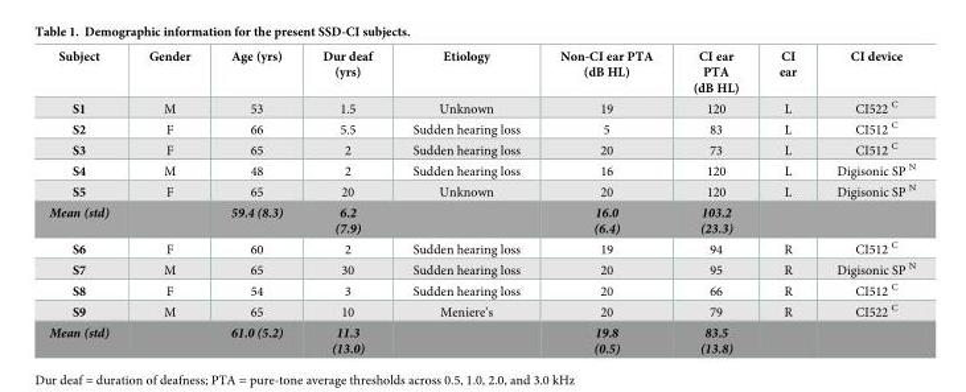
<table><thead><tr><td>Subject</td><td>Gender</td><td>Age (yrs)</td><td>Dur deaf (yrs)</td><td>Etiology</td><td>Non-CI ear PTA (dB HL)</td><td>CI ear PTA (dB HL)</td><td>CI ear</td><td>CI device</td></tr></thead><tbody><tr><td>S1</td><td>M</td><td>53</td><td>1.5</td><td>Unknown</td><td>19</td><td>120</td><td>L</td><td>CI522 <sup>C</sup></td></tr><tr><td>S2</td><td>F</td><td>66</td><td>5.5</td><td>Sudden hearing loss</td><td>5</td><td>83</td><td>L</td><td>CI512 <sup>C</sup></td></tr><tr><td>S3</td><td>F</td><td>65</td><td>2</td><td>Sudden hearing loss</td><td>20</td><td>73</td><td>L</td><td>CI512 <sup>C</sup></td></tr><tr><td>S4</td><td>M</td><td>48</td><td>2</td><td>Sudden hearing loss</td><td>16</td><td>120</td><td>L</td><td>Digisonic SP <sup>N</sup></td></tr><tr><td>S5</td><td>F</td><td>65</td><td>20</td><td>Unknown</td><td>20</td><td>120</td><td>L</td><td>Digisonic SP <sup>N</sup></td></tr><tr><td>Mean (std)</td><td></td><td>59.4 (8.3)</td><td>6.2 (7.9)</td><td></td><td>16.0 (6.4)</td><td>103.2 (23.3)</td><td></td><td></td></tr><tr><td>S6</td><td>F</td><td>60</td><td>2</td><td>Sudden hearing loss</td><td>19</td><td>94</td><td>R</td><td>CI512 <sup>C</sup></td></tr><tr><td>S7</td><td>M</td><td>65</td><td>30</td><td>Sudden hearing loss</td><td>20</td><td>95</td><td>R</td><td>Digisonic SP <sup>N</sup></td></tr><tr><td>S8</td><td>F</td><td>54</td><td>3</td><td>Sudden hearing loss</td><td>20</td><td>66</td><td>R</td><td>CI512 <sup>C</sup></td></tr><tr><td>S9</td><td>M</td><td>65</td><td>10</td><td>Meniere’s</td><td>20</td><td>79</td><td>R</td><td>CI522 <sup>C</sup></td></tr><tr><td>Mean (std)</td><td></td><td>61.0 (5.2)</td><td>11.3</td><td></td><td>19.8</td><td>83.5</td><td></td><td></td></tr></tbody></table>